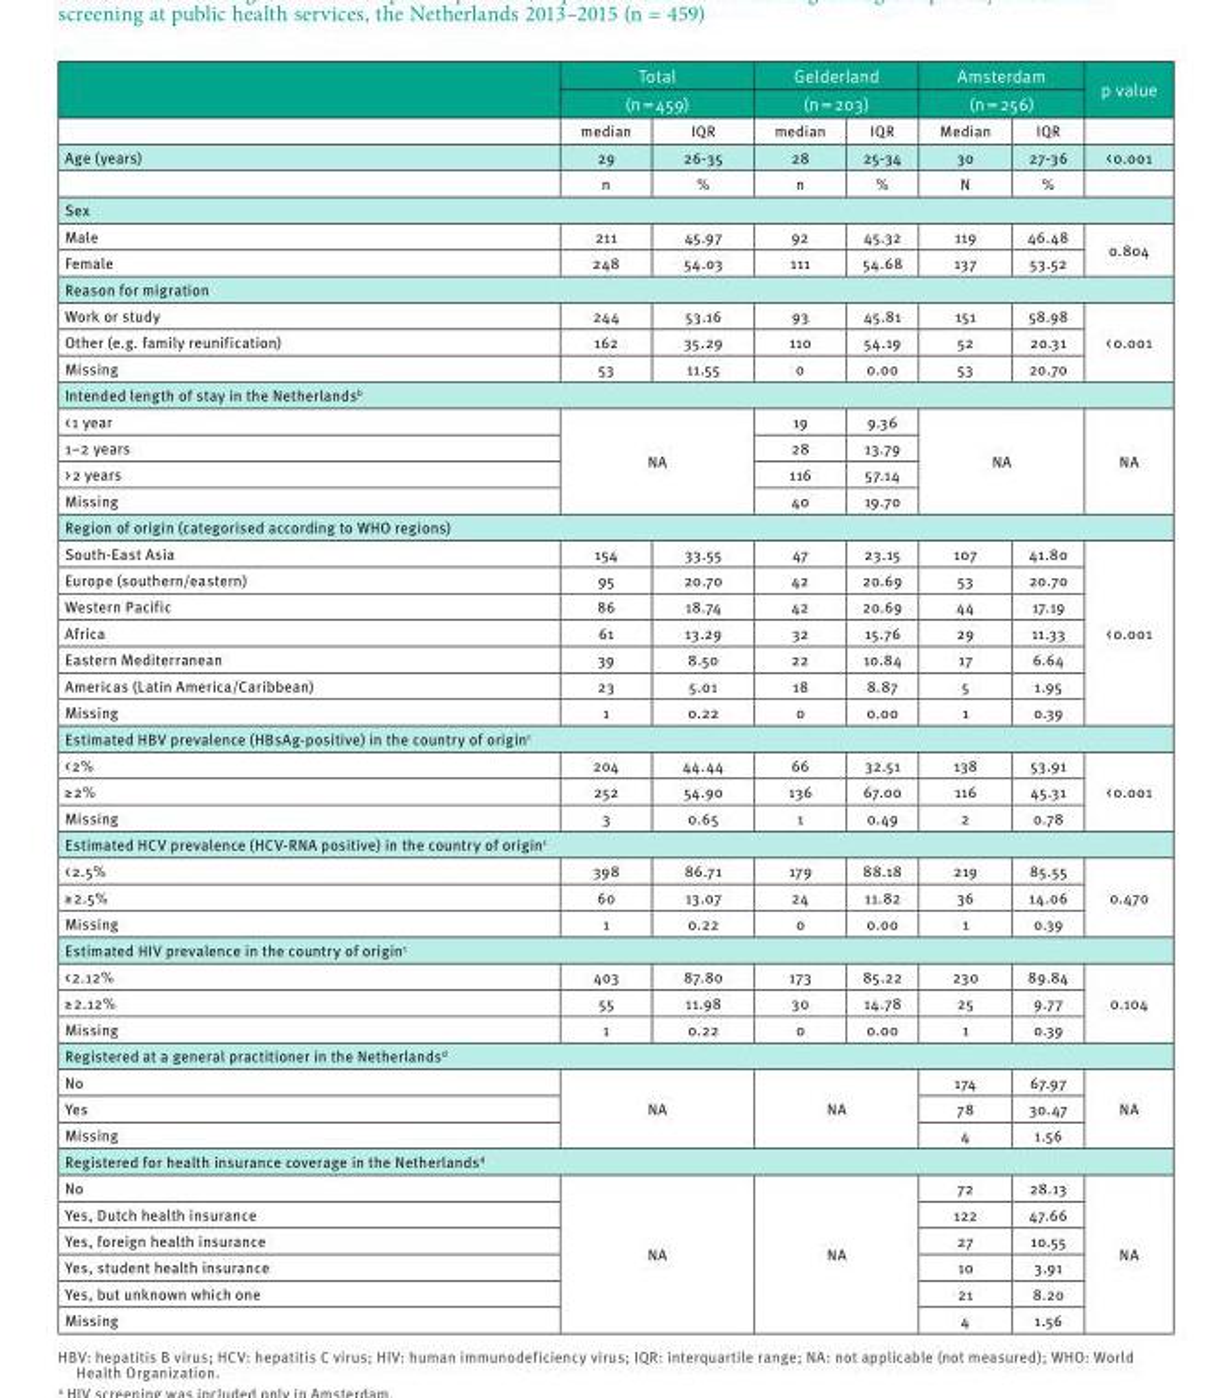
<table><thead><tr><td rowspan="3"></td><td rowspan="2" colspan="2">Total (n = 459)</td><td rowspan="2" colspan="2">Gelderland (n = 203)</td><td rowspan="2" colspan="2">Amsterdam (n = 256)</td><td rowspan="3">p value</td></tr><tr></tr><tr><td>median</td><td>IQR</td><td>median</td><td>IQR</td><td>Median</td><td>IQR</td></tr></thead><tbody><tr><td rowspan="2">Age (years)</td><td>29</td><td>26-35</td><td>28</td><td>25-34</td><td>30</td><td>27-36</td><td>&lt; 0.001</td></tr><tr><td>n</td><td>%</td><td>n</td><td>%</td><td>N</td><td>%</td><td></td></tr><tr><td colspan="8">Sex</td></tr><tr><td>Male</td><td>211</td><td>45.97</td><td>92</td><td>45.32</td><td>119</td><td>46.48</td><td rowspan="2">0.804</td></tr><tr><td>Female</td><td>248</td><td>54.03</td><td>111</td><td>54.68</td><td>137</td><td>53.52</td></tr><tr><td colspan="8">Reason for migration</td></tr><tr><td>Work or study</td><td>244</td><td>53.16</td><td>93</td><td>45.81</td><td>151</td><td>58.98</td><td rowspan="3">&lt; 0.001</td></tr><tr><td>Other (e.g. family reunification)</td><td>162</td><td>35.29</td><td>110</td><td>54.19</td><td>52</td><td>20.31</td></tr><tr><td>Missing</td><td>53</td><td>11.55</td><td>0</td><td>0.00</td><td>53</td><td>20.70</td></tr><tr><td colspan="8">Intended length of stay in the Netherlands<sup>b</sup></td></tr><tr><td>&lt; 1 year</td><td rowspan="4" colspan="2">NA</td><td>19</td><td>9.36</td><td rowspan="4" colspan="2">NA</td><td rowspan="4">NA</td></tr><tr><td>1–2 years</td><td>28</td><td>13.79</td></tr><tr><td>&gt; 2 years</td><td>116</td><td>57.14</td></tr><tr><td>Missing</td><td>40</td><td>19.70</td></tr><tr><td colspan="8">Region of origin (categorised according to WHO regions)</td></tr><tr><td>South-East Asia</td><td>154</td><td>33.55</td><td>47</td><td>23.15</td><td>107</td><td>41.80</td><td rowspan="7">&lt; 0.001</td></tr><tr><td>Europe (southern/eastern)</td><td>95</td><td>20.70</td><td>42</td><td>20.69</td><td>53</td><td>20.70</td></tr><tr><td>Western Pacific</td><td>86</td><td>18.74</td><td>42</td><td>20.69</td><td>44</td><td>17.19</td></tr><tr><td>Africa</td><td>61</td><td>13.29</td><td>32</td><td>15.76</td><td>29</td><td>11.33</td></tr><tr><td>Eastern Mediterranean</td><td>39</td><td>8.50</td><td>22</td><td>10.84</td><td>17</td><td>6.64</td></tr><tr><td>Americas (Latin America/Caribbean)</td><td>23</td><td>5.01</td><td>18</td><td>8.87</td><td>5</td><td>1.95</td></tr><tr><td>Missing</td><td>1</td><td>0.22</td><td>0</td><td>0.00</td><td>1</td><td>0.39</td></tr><tr><td colspan="8">Estimated HBV prevalence (HBsAg-positive) in the country of origin<sup>c</sup></td></tr><tr><td>&lt; 2%</td><td>204</td><td>44.44</td><td>66</td><td>32.51</td><td>138</td><td>53.91</td><td rowspan="3">&lt; 0.001</td></tr><tr><td>≥ 2%</td><td>252</td><td>54.90</td><td>136</td><td>67.00</td><td>116</td><td>45.31</td></tr><tr><td>Missing</td><td>3</td><td>0.65</td><td>1</td><td>0.49</td><td>2</td><td>0.78</td></tr><tr><td colspan="8">Estimated HCV prevalence (HCV-RNA positive) in the country of origin<sup>c</sup></td></tr><tr><td>&lt; 2.5%</td><td>398</td><td>86.71</td><td>179</td><td>88.18</td><td>219</td><td>85.55</td><td rowspan="3">0.470</td></tr><tr><td>≥ 2.5%</td><td>60</td><td>13.07</td><td>24</td><td>11.82</td><td>36</td><td>14.06</td></tr><tr><td>Missing</td><td>1</td><td>0.22</td><td>0</td><td>0.00</td><td>1</td><td>0.39</td></tr><tr><td colspan="8">Estimated HIV prevalence in the country of origin<sup>c</sup></td></tr><tr><td>&lt; 2.12%</td><td>403</td><td>87.80</td><td>173</td><td>85.22</td><td>230</td><td>89.84</td><td rowspan="3">0.104</td></tr><tr><td>≥ 2.12%</td><td>55</td><td>11.98</td><td>30</td><td>14.78</td><td>25</td><td>9.77</td></tr><tr><td>Missing</td><td>1</td><td>0.22</td><td>0</td><td>0.00</td><td>1</td><td>0.39</td></tr><tr><td colspan="8">Registered at a general practitioner in the Netherlands<sup>d</sup></td></tr><tr><td>No</td><td rowspan="3" colspan="2">NA</td><td rowspan="3" colspan="2">NA</td><td>174</td><td>67.97</td><td rowspan="3">NA</td></tr><tr><td>Yes</td><td>78</td><td>30.47</td></tr><tr><td>Missing</td><td>4</td><td>1.56</td></tr><tr><td colspan="8">Registered for health insurance coverage in the Netherlands<sup>d</sup></td></tr><tr><td>No</td><td rowspan="6" colspan="2">NA</td><td rowspan="6" colspan="2">NA</td><td>72</td><td>28.13</td><td rowspan="6">NA</td></tr><tr><td>Yes, Dutch health insurance</td><td>122</td><td>47.66</td></tr><tr><td>Yes, foreign health insurance</td><td>27</td><td>10.55</td></tr><tr><td>Yes, student health insurance</td><td>10</td><td>3.91</td></tr><tr><td>Yes, but unknown which one</td><td>21</td><td>8.20</td></tr><tr><td>Missing</td><td>4</td><td>1.56</td></tr></tbody></table>